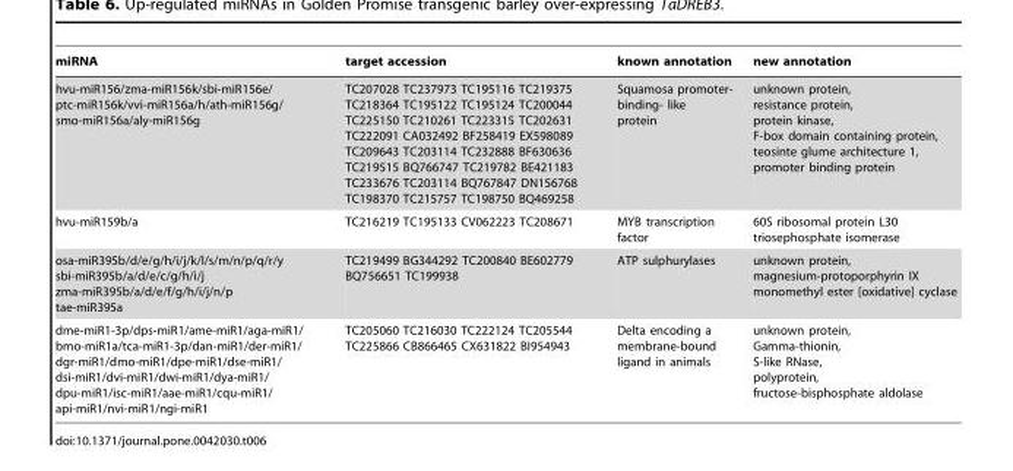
<table><thead><tr><td>miRNA</td><td>target accession</td><td>known annotation</td><td>new annotation</td></tr></thead><tbody><tr><td>hvu-miR156/zma-miR156k/sbi-miR156e/ ptc-miR156k/vvi-miR156a/h/ath-miR156g/ smo-miR156a/aly-miR156g</td><td>TC207028 TC237973 TC195116 TC219375 TC218364 TC195122 TC195124 TC200044 TC225150 TC210261 TC223315 TC202631 TC222091 CA032492 BF258419 EX598089 TC209643 TC203114 TC232888 BF630636 TC219515 BQ766747 TC219782 BE421183 TC233676 TC203114 BQ767847 DN156768 TC198370 TC215757 TC198750 BQ469258</td><td>Squamosa promoter- binding- like protein</td><td>unknown protein, resistance protein, protein kinase, F-box domain containing protein, teosinte glume architecture 1, promoter binding protein</td></tr><tr><td>hvu-miR159b/a</td><td>TC216219 TC195133 CV062223 TC208671</td><td>MYB transcription factor</td><td>60S ribosomal protein L30 triosephosphate isomerase</td></tr><tr><td>osa-miR395b/d/e/g/h/i/j/k/l/s/m/n/p/q/r/y sbi-miR395b/a/d/e/c/g/h/i/j zma-miR395b/a/d/e/f/g/h/i/j/n/p tae-miR395a</td><td>TC219499 BG344292 TC200840 BE602779 BQ756651 TC199938</td><td>ATP sulphurylases</td><td>unknown protein, magnesium-protoporphyrin IX monomethyl ester [oxidative] cyclase</td></tr><tr><td>dme-miR1-3p/dps-miR1/ame-miR1/aga-miR1/ bmo-miR1a/tca-miR1-3p/dan-miR1/der-miR1/ dgr-miR1/dmo-miR1/dpe-miR1/dse-miR1/ dsi-miR1/dvi-miR1/dwi-miR1/dya-miR1/ dpu-miR1/isc-miR1/aae-miR1/cqu-miR1/ api-miR1/nvi-miR1/ngi-miR1</td><td>TC205060 TC216030 TC222124 TC205544 TC225866 CB866465 CX631822 BI954943</td><td>Delta encoding a membrane-bound ligand in animals</td><td>unknown protein, Gamma-thionin, S-like RNase, polyprotein, fructose-bisphosphate aldolase</td></tr></tbody></table>